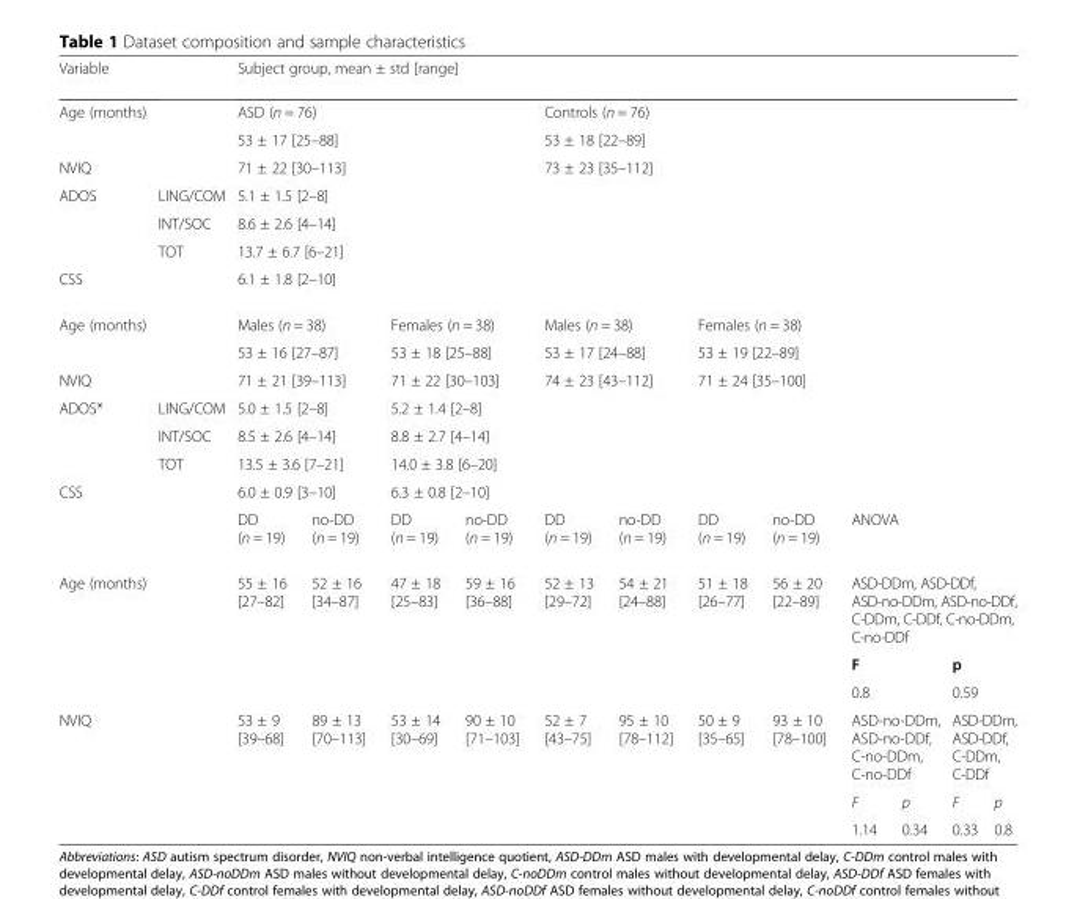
<table><tbody><tr><td>Variable</td><td></td><td colspan="8">Subject group, mean ± std [range]</td><td colspan="4"></td></tr><tr><td rowspan="2">Age (months)</td><td rowspan="2"></td><td colspan="4">ASD (n = 76)</td><td colspan="4">Controls (n = 76)</td><td rowspan="6" colspan="4"></td></tr><tr><td colspan="4">53 ± 17 [25–88]</td><td colspan="4">53 ± 18 [22–89]</td></tr><tr><td>NVIQ</td><td></td><td colspan="4">71 ± 22 [30–113]</td><td colspan="4">73 ± 23 [35–112]</td></tr><tr><td rowspan="3">ADOS</td><td>LING/COM</td><td colspan="4">5.1 ± 1.5 [2–8]</td><td rowspan="3" colspan="4"></td></tr><tr><td>INT/SOC</td><td colspan="4">8.6 ± 2.6 [4–14]</td></tr><tr><td>TOT</td><td colspan="4">13.7 ± 6.7 [6–21]</td></tr><tr><td>CSS</td><td></td><td colspan="4">6.1 ± 1.8 [2–10]</td><td colspan="4"></td><td colspan="4"></td></tr><tr><td rowspan="2">Age (months)</td><td rowspan="2"></td><td colspan="2">Males (n = 38)</td><td colspan="2">Females (n = 38)</td><td colspan="2">Males (n = 38)</td><td colspan="2">Females (n = 38)</td><td rowspan="6" colspan="4"></td></tr><tr><td colspan="2">53 ± 16 [27–87]</td><td colspan="2">53 ± 18 [25–88]</td><td colspan="2">53 ± 17 [24–88]</td><td colspan="2">53 ± 19 [22–89]</td></tr><tr><td>NVIQ</td><td></td><td colspan="2">71 ± 21 [39–113]</td><td colspan="2">71 ± 22 [30–103]</td><td colspan="2">74 ± 23 [43–112]</td><td colspan="2">71 ± 24 [35–100]</td></tr><tr><td rowspan="3">ADOS*</td><td>LING/COM</td><td colspan="2">5.0 ± 1.5 [2–8]</td><td colspan="2">5.2 ± 1.4 [2–8]</td><td rowspan="3" colspan="2"></td><td rowspan="3" colspan="2"></td></tr><tr><td>INT/SOC</td><td colspan="2">8.5 ± 2.6 [4–14]</td><td colspan="2">8.8 ± 2.7 [4–14]</td></tr><tr><td>TOT</td><td colspan="2">13.5 ± 3.6 [7–21]</td><td colspan="2">14.0 ± 3.8 [6–20]</td></tr><tr><td rowspan="2">CSS</td><td></td><td colspan="2">6.0 ± 0.9 [3–10]</td><td colspan="2">6.3 ± 0.8 [2–10]</td><td colspan="2"></td><td colspan="2"></td><td colspan="4"></td></tr><tr><td></td><td>DD (n = 19)</td><td>no-DD (n = 19)</td><td>DD (n = 19)</td><td>no-DD (n = 19)</td><td>DD (n = 19)</td><td>no-DD (n = 19)</td><td>DD (n = 19)</td><td>no-DD (n = 19)</td><td colspan="4">ANOVA</td></tr><tr><td rowspan="3">Age (months)</td><td rowspan="3"></td><td rowspan="3">55 ± 16 [27–82]</td><td rowspan="3">52 ± 16 [34–87]</td><td rowspan="3">47 ± 18 [25–83]</td><td rowspan="3">59 ± 16 [36–88]</td><td rowspan="3">52 ± 13 [29–72]</td><td rowspan="3">54 ± 21 [24–88]</td><td rowspan="3">51 ± 18 [26–77]</td><td rowspan="3">56 ± 20 [22–89]</td><td colspan="4">ASD-DDm, ASD-DDf, ASD-no-DDm, ASD-no-DDf, C-DDm, C-DDf, C-no-DDm, C-no-DDf</td></tr><tr><td colspan="2">F</td><td colspan="2">p</td></tr><tr><td colspan="2">0.8</td><td colspan="2">0.59</td></tr><tr><td rowspan="3">NVIQ</td><td rowspan="3"></td><td rowspan="3">53 ± 9 [39–68]</td><td rowspan="3">89 ± 13 [70–113]</td><td rowspan="3">53 ± 14 [30–69]</td><td rowspan="3">90 ± 10 [71–103]</td><td rowspan="3">52 ± 7 [43–75]</td><td rowspan="3">95 ± 10 [78–112]</td><td rowspan="3">50 ± 9 [35–65]</td><td rowspan="3">93 ± 10 [78–100]</td><td colspan="2">ASD-no-DDm, ASD-no-DDf, C-no-DDm, C-no-DDf</td><td colspan="2">ASD-DDm, ASD-DDf, C-DDm, C-DDf</td></tr><tr><td>F</td><td>p</td><td>F</td><td>p</td></tr><tr><td>1.14</td><td>0.34</td><td>0.33</td><td>0.8</td></tr></tbody></table>